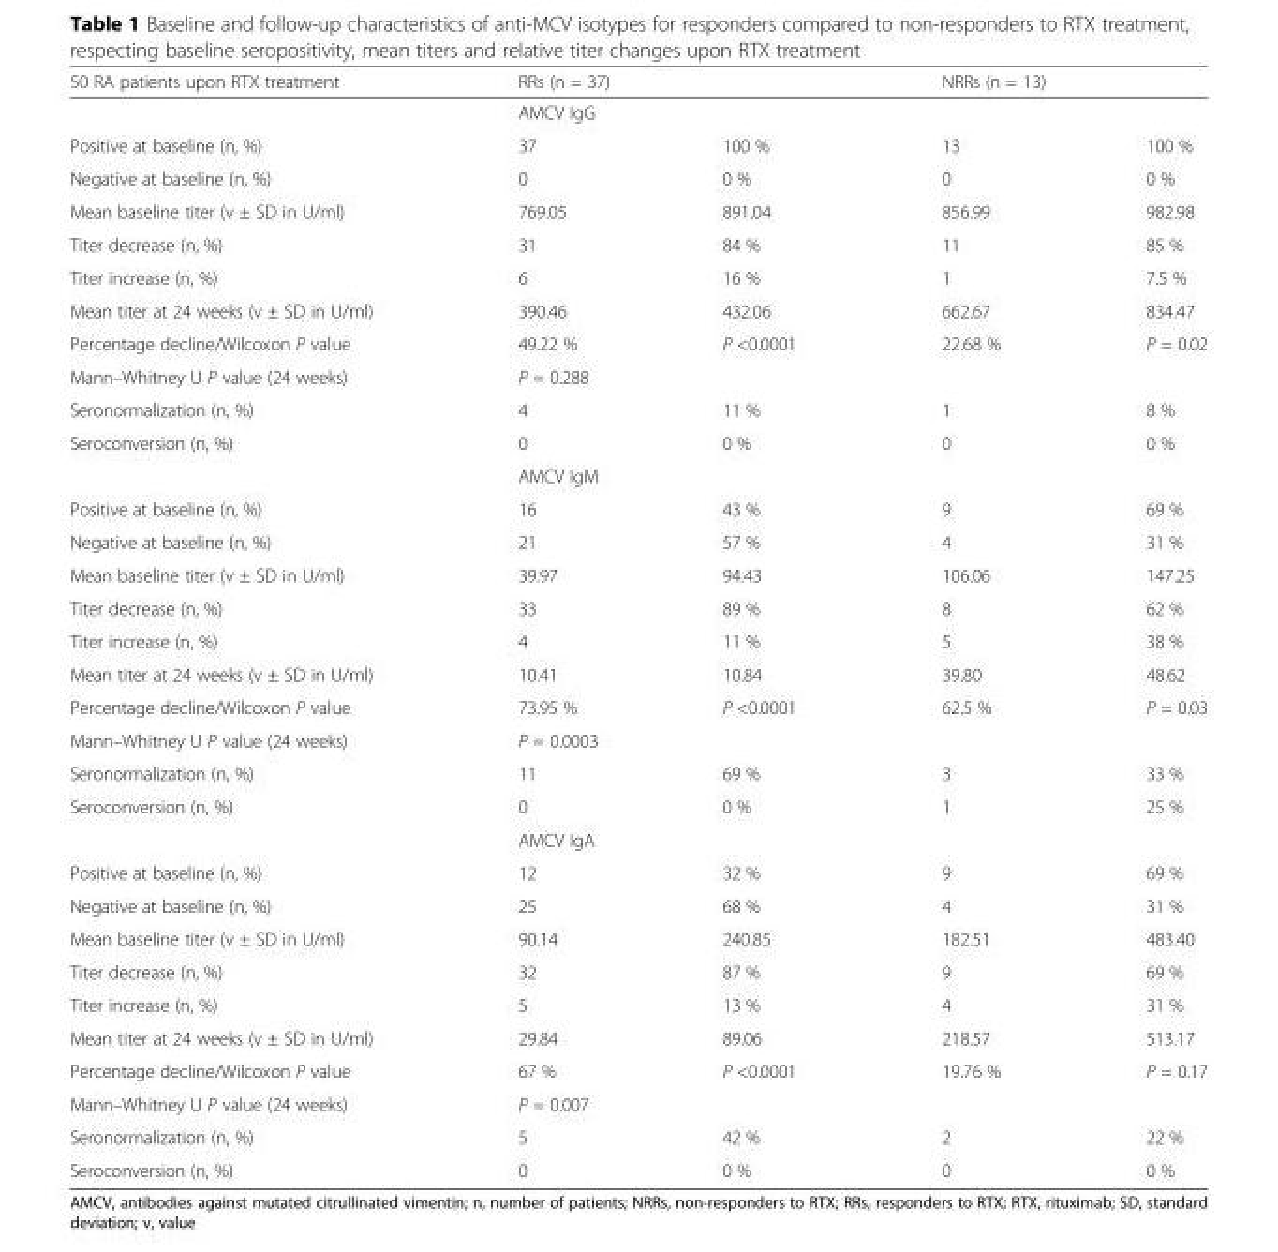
<table><thead><tr><td rowspan="3">50 RA patients upon RTX treatment Positive at baseline (n, %)</td><td colspan="2">RRs (n = 37)</td><td colspan="2">NRRs (n = 13)</td></tr><tr><td colspan="4">AMCV IgG</td></tr><tr><td>37</td><td>100 %</td><td>13</td><td>100 %</td></tr></thead><tbody><tr><td>Negative at baseline (n, %)</td><td>0</td><td>0 %</td><td>0</td><td>0 %</td></tr><tr><td>Mean baseline titer (v ± SD in U/ml)</td><td>769.05</td><td>891.04</td><td>856.99</td><td>982.98</td></tr><tr><td>Titer decrease (n, %)</td><td>31</td><td>84 %</td><td>11</td><td>85 %</td></tr><tr><td>Titer increase (n, %)</td><td>6</td><td>16 %</td><td>1</td><td>7.5 %</td></tr><tr><td>Mean titer at 24 weeks (v ± SD in U/ml)</td><td>390.46</td><td>432.06</td><td>662.67</td><td>834.47</td></tr><tr><td>Percentage decline/Wilcoxon P value</td><td>49.22 %</td><td>P &lt;0.0001</td><td>22.68 %</td><td>P = 0.02</td></tr><tr><td>Mann–Whitney U P value (24 weeks)</td><td colspan="4">P = 0.288</td></tr><tr><td>Seronormalization (n, %)</td><td>4</td><td>11 %</td><td>1</td><td>8 %</td></tr><tr><td rowspan="2">Seroconversion (n, %)</td><td>0</td><td>0 %</td><td>0</td><td>0 %</td></tr><tr><td colspan="4">AMCV IgM</td></tr><tr><td>Positive at baseline (n, %)</td><td>16</td><td>43 %</td><td>9</td><td>69 %</td></tr><tr><td>Negative at baseline (n, %)</td><td>21</td><td>57 %</td><td>4</td><td>31 %</td></tr><tr><td>Mean baseline titer (v ± SD in U/ml)</td><td>39.97</td><td>94.43</td><td>106.06</td><td>147.25</td></tr><tr><td>Titer decrease (n, %)</td><td>33</td><td>89 %</td><td>8</td><td>62 %</td></tr><tr><td>Titer increase (n, %)</td><td>4</td><td>11 %</td><td>5</td><td>38 %</td></tr><tr><td>Mean titer at 24 weeks (v ± SD in U/ml)</td><td>10.41</td><td>10.84</td><td>39.80</td><td>48.62</td></tr><tr><td>Percentage decline/Wilcoxon P value</td><td>73.95 %</td><td>P &lt;0.0001</td><td>62.5 %</td><td>P = 0.03</td></tr><tr><td>Mann–Whitney U P value (24 weeks)</td><td colspan="4">P = 0.0003</td></tr><tr><td>Seronormalization (n, %)</td><td>11</td><td>69 %</td><td>3</td><td>33 %</td></tr><tr><td rowspan="2">Seroconversion (n, %)</td><td>0</td><td>0 %</td><td>1</td><td>25 %</td></tr><tr><td colspan="4">AMCV IgA</td></tr><tr><td>Positive at baseline (n, %)</td><td>12</td><td>32 %</td><td>9</td><td>69 %</td></tr><tr><td>Negative at baseline (n, %)</td><td>25</td><td>68 %</td><td>4</td><td>31 %</td></tr><tr><td>Mean baseline titer (v ± SD in U/ml)</td><td>90.14</td><td>240.85</td><td>182.51</td><td>483.40</td></tr><tr><td>Titer decrease (n, %)</td><td>32</td><td>87 %</td><td>9</td><td>69 %</td></tr><tr><td>Titer increase (n, %)</td><td>5</td><td>13 %</td><td>4</td><td>31 %</td></tr><tr><td>Mean titer at 24 weeks (v ± SD in U/ml)</td><td>29.84</td><td>89.06</td><td>218.57</td><td>513.17</td></tr><tr><td>Percentage decline/Wilcoxon P value</td><td>67 %</td><td>P &lt;0.0001</td><td>19.76 %</td><td>P = 0.17</td></tr><tr><td>Mann–Whitney U P value (24 weeks)</td><td colspan="4">P = 0.007</td></tr><tr><td>Seronormalization (n, %)</td><td>5</td><td>42 %</td><td>2</td><td>22 %</td></tr><tr><td>Seroconversion (n, %)</td><td>0</td><td>0 %</td><td>0</td><td>0 %</td></tr></tbody></table>